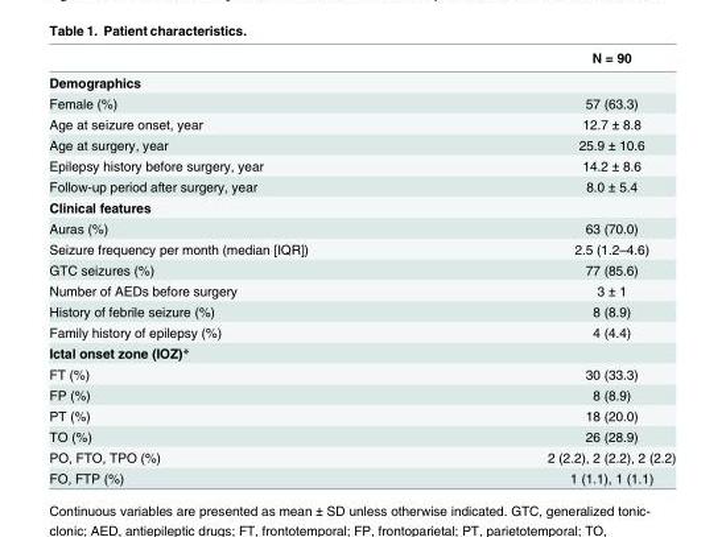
<table><thead><tr><td></td><td>N = 90</td></tr></thead><tbody><tr><td colspan="2">Demographics</td></tr><tr><td>Female (%)</td><td>57 (63.3)</td></tr><tr><td>Age at seizure onset, year</td><td>12.7 ± 8.8</td></tr><tr><td>Age at surgery, year</td><td>25.9 ± 10.6</td></tr><tr><td>Epilepsy history before surgery, year</td><td>14.2 ± 8.6</td></tr><tr><td>Follow-up period after surgery, year</td><td>8.0 ± 5.4</td></tr><tr><td colspan="2">Clinical features</td></tr><tr><td>Auras (%)</td><td>63 (70.0)</td></tr><tr><td>Seizure frequency per month (median [IQR])</td><td>2.5 (1.2–4.6)</td></tr><tr><td>GTC seizures (%)</td><td>77 (85.6)</td></tr><tr><td>Number of AEDs before surgery</td><td>3 ± 1</td></tr><tr><td>History of febrile seizure (%)</td><td>8 (8.9)</td></tr><tr><td>Family history of epilepsy (%)</td><td>4 (4.4)</td></tr><tr><td colspan="2">Ictal onset zone (IOZ)*</td></tr><tr><td>FT (%)</td><td>30 (33.3)</td></tr><tr><td>FP (%)</td><td>8 (8.9)</td></tr><tr><td>PT (%)</td><td>18 (20.0)</td></tr><tr><td>TO (%)</td><td>26 (28.9)</td></tr><tr><td>PO, FTO, TPO (%)</td><td>2 (2.2), 2 (2.2), 2 (2.2)</td></tr><tr><td>FO, FTP (%)</td><td>1 (1.1), 1 (1.1)</td></tr></tbody></table>